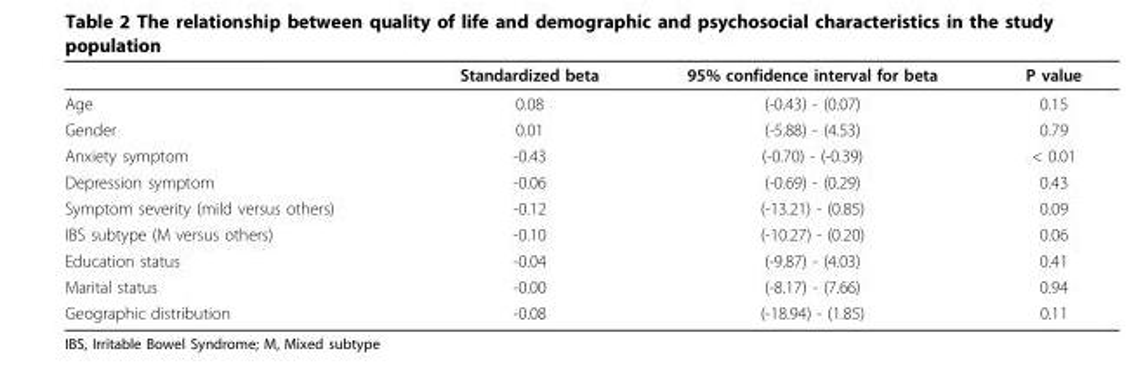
<table><thead><tr><td></td><td>Standardized beta</td><td>95% confidence interval for beta</td><td>P value</td></tr></thead><tbody><tr><td>Age</td><td>0.08</td><td>(-0.43) - (0.07)</td><td>0.15</td></tr><tr><td>Gender</td><td>0.01</td><td>(-5.88) - (4.53)</td><td>0.79</td></tr><tr><td>Anxiety symptom</td><td>-0.43</td><td>(-0.70) - (-0.39)</td><td>&lt; 0.01</td></tr><tr><td>Depression symptom</td><td>-0.06</td><td>(-0.69) - (0.29)</td><td>0.43</td></tr><tr><td>Symptom severity (mild versus others)</td><td>-0.12</td><td>(-13.21) - (0.85)</td><td>0.09</td></tr><tr><td>IBS subtype (M versus others)</td><td>-0.10</td><td>(-10.27) - (0.20)</td><td>0.06</td></tr><tr><td>Education status</td><td>-0.04</td><td>(-9.87) - (4.03)</td><td>0.41</td></tr><tr><td>Marital status</td><td>-0.00</td><td>(-8.17) - (7.66)</td><td>0.94</td></tr><tr><td>Geographic distribution</td><td>-0.08</td><td>(-18.94) - (1.85)</td><td>0.11</td></tr></tbody></table>